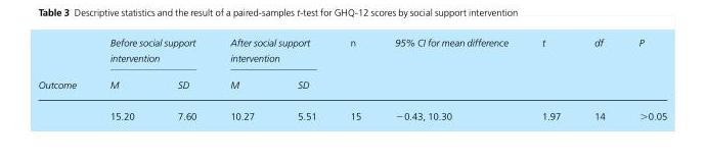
<table><thead><tr><td rowspan="2">Outcome</td><td colspan="2">Before social support intervention</td><td colspan="2">After social support intervention</td><td rowspan="2">n</td><td rowspan="2">95% CI for mean difference</td><td rowspan="2">t</td><td rowspan="2">df</td><td rowspan="2">P</td></tr><tr><td>M</td><td>SD</td><td>M</td><td>SD</td></tr></thead><tbody><tr><td></td><td>15.20</td><td>7.60</td><td>10.27</td><td>5.51</td><td>15</td><td>−0.43, 10.30</td><td>1.97</td><td>14</td><td>&gt;0.05</td></tr></tbody></table>